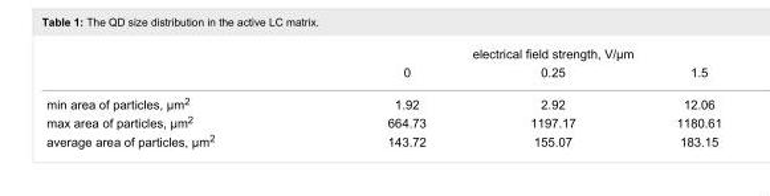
<table><thead><tr><td rowspan="2"></td><td colspan="3">electrical field strength, V/μm</td></tr><tr><td>0</td><td>0.25</td><td>1.5</td></tr></thead><tbody><tr><td>min area of particles, μm<sup>2</sup></td><td>1.92</td><td>2.92</td><td>12.06</td></tr><tr><td>max area of particles, μm<sup>2</sup></td><td>664.73</td><td>1197.17</td><td>1180.61</td></tr><tr><td>average area of particles, μm<sup>2</sup></td><td>143.72</td><td>155.07</td><td>183.15</td></tr></tbody></table>